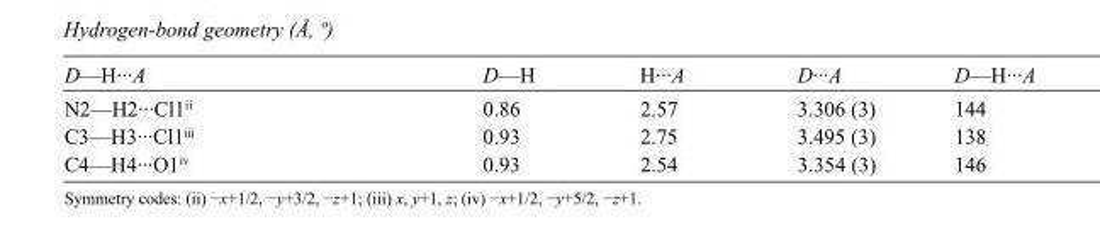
<table><tbody><tr><td>D—H···A</td><td>D—H</td><td>H···A</td><td>D···A</td><td>D—H···A</td></tr><tr><td>N2—H2···Cl1<sup>ii</sup></td><td>0.86</td><td>2.57</td><td>3.306 (3)</td><td>144</td></tr><tr><td>C3—H3···Cl1<sup>iii</sup></td><td>0.93</td><td>2.75</td><td>3.495 (3)</td><td>138</td></tr><tr><td>C4—H4···O1<sup>iv</sup></td><td>0.93</td><td>2.54</td><td>3.354 (3)</td><td>146</td></tr></tbody></table>